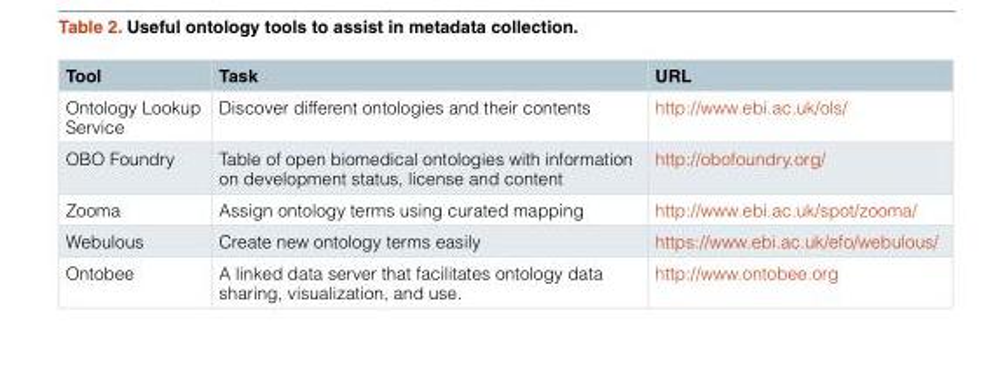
<table><thead><tr><td>Tool</td><td>Task</td><td>URL</td></tr></thead><tbody><tr><td>Ontology Lookup Service</td><td>Discover different ontologies and their contents</td><td>http://www.ebi.ac.uk/ols/</td></tr><tr><td>OBO Foundry</td><td>Table of open biomedical ontologies with information on development status, license and content</td><td>http://obofoundry.org/</td></tr><tr><td>Zooma</td><td>Assign ontology terms using curated mapping</td><td>http://www.ebi.ac.uk/spot/zooma/</td></tr><tr><td>Webulous</td><td>Create new ontology terms easily</td><td>https://www.ebi.ac.uk/efo/webulous/</td></tr><tr><td>Ontobee</td><td>A linked data server that facilitates ontology data sharing, visualization, and use.</td><td>http://www.ontobee.org</td></tr></tbody></table>